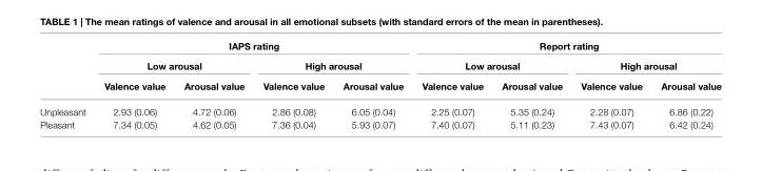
<table><thead><tr><td rowspan="3"></td><td colspan="4">IAPS rating</td><td colspan="4">Report rating</td></tr><tr><td colspan="2">Low arousal</td><td colspan="2">High arousal</td><td colspan="2">Low arousal</td><td colspan="2">High arousal</td></tr><tr><td>Valence value</td><td>Arousal value</td><td>Valence value</td><td>Arousal value</td><td>Valence value</td><td>Arousal value</td><td>Valence value</td><td>Arousal value</td></tr></thead><tbody><tr><td>Unpleasant</td><td>2.93 (0.06)</td><td>4.72 (0.06)</td><td>2.86 (0.08)</td><td>6.05 (0.04)</td><td>2.25 (0.07)</td><td>5.35 (0.24)</td><td>2.28 (0.07)</td><td>6.86 (0.22)</td></tr><tr><td>Pleasant</td><td>7.34 (0.05)</td><td>4.62 (0.05)</td><td>7.36 (0.04)</td><td>5.93 (0.07)</td><td>7.40 (0.07)</td><td>5.11 (0.23)</td><td>7.43 (0.07)</td><td>6.42 (0.24)</td></tr></tbody></table>